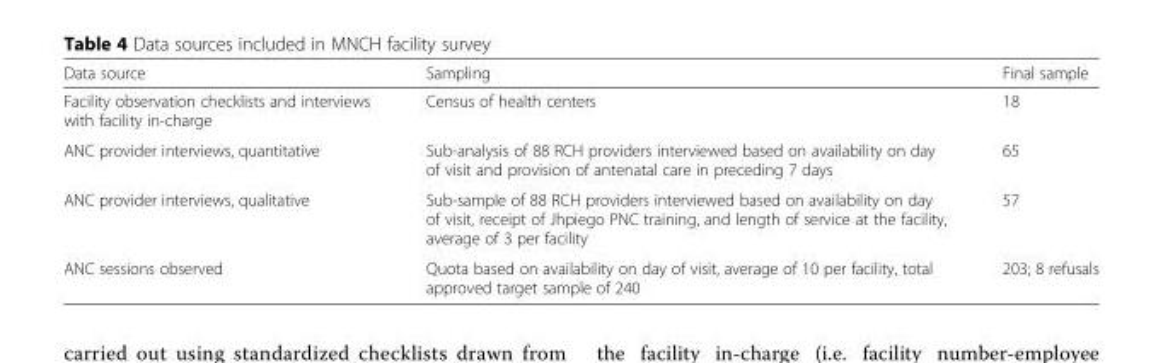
<table><thead><tr><td>Data source</td><td>Sampling</td><td>Final sample</td></tr></thead><tbody><tr><td>Facility observation checklists and interviews with facility in-charge</td><td>Census of health centers</td><td>18</td></tr><tr><td>ANC provider interviews, quantitative</td><td>Sub-analysis of 88 RCH providers interviewed based on availability on day of visit and provision of antenatal care in preceding 7 days</td><td>65</td></tr><tr><td>ANC provider interviews, qualitative</td><td>Sub-sample of 88 RCH providers interviewed based on availability on day of visit, receipt of Jhpiego PNC training, and length of service at the facility, average of 3 per facility</td><td>57</td></tr><tr><td>ANC sessions observed</td><td>Quota based on availability on day of visit, average of 10 per facility, total approved target sample of 240</td><td>203; 8 refusals</td></tr></tbody></table>